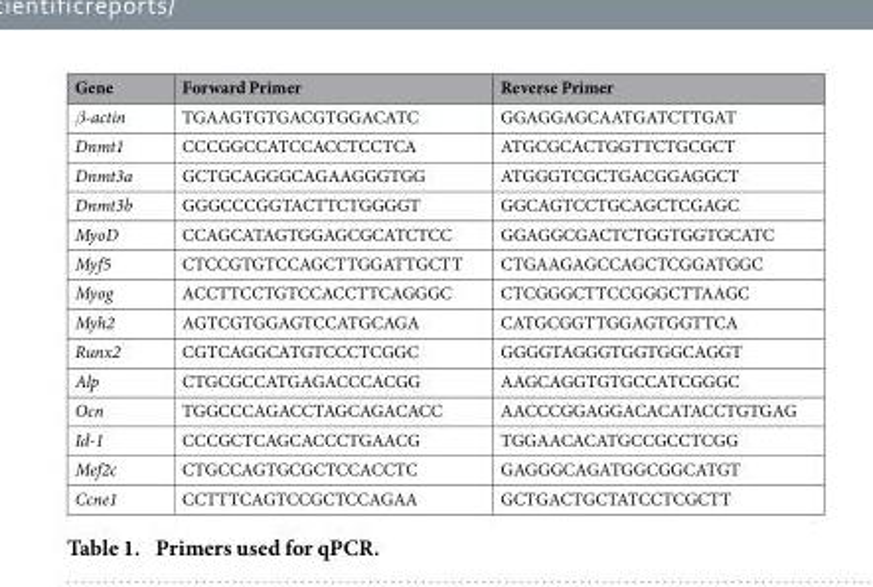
<table><thead><tr><td>Gene</td><td>Forward Primer</td><td>Reverse Primer</td></tr></thead><tbody><tr><td>β-actin</td><td>TGAAGTGTGACGTGGACATC</td><td>GGAGGAGCAATGATCTTGAT</td></tr><tr><td>Dnmt1</td><td>CCCGGCCATCCACCTCCTCA</td><td>ATGCGCACTGGTTCTGCGCT</td></tr><tr><td>Dnmt3a</td><td>GCTGCAGGGCAGAAGGGTGG</td><td>ATGGGTCGCTGACGGAGGCT</td></tr><tr><td>Dnmt3b</td><td>GGGCCCGGTACTTCTGGGGT</td><td>GGCAGTCCTGCAGCTCGAGC</td></tr><tr><td>MyoD</td><td>CCAGCATAGTGGAGCGCATCTCC</td><td>GGAGGCGACTCTGGTGGTGCATC</td></tr><tr><td>Myf5</td><td>CTCCGTGTCCAGCTTGGATTGCTT</td><td>CTGAAGAGCCAGCTCGGATGGC</td></tr><tr><td>Myog</td><td>ACCTTCCTGTCCACCTTCAGGGC</td><td>CTCGGGCTTCCGGGCTTAAGC</td></tr><tr><td>Myh2</td><td>AGTCGTGGAGTCCATGCAGA</td><td>CATGCGGTTGGAGTGGTTCA</td></tr><tr><td>Runx2</td><td>CGTCAGGCATGTCCCTCGGC</td><td>GGGGTAGGGTGGTGGCAGGT</td></tr><tr><td>Alp</td><td>CTGCGCCATGAGACCCACGG</td><td>AAGCAGGTGTGCCATCGGGC</td></tr><tr><td>Ocn</td><td>TGGCCCAGACCTAGCAGACACC</td><td>AACCCGGAGGACACATACCTGTGAG</td></tr><tr><td>Id-1</td><td>CCCGCTCAGCACCCTGAACG</td><td>TGGAACACATGCCGCCTCGG</td></tr><tr><td>Mef2c</td><td>CTGCCAGTGCGCTCCACCTC</td><td>GAGGGCAGATGGCGGCATGT</td></tr><tr><td>Ccne1</td><td>CCTTTCAGTCCGCTCCAGAA</td><td>GCTGACTGCTATCCTCGCTT</td></tr></tbody></table>